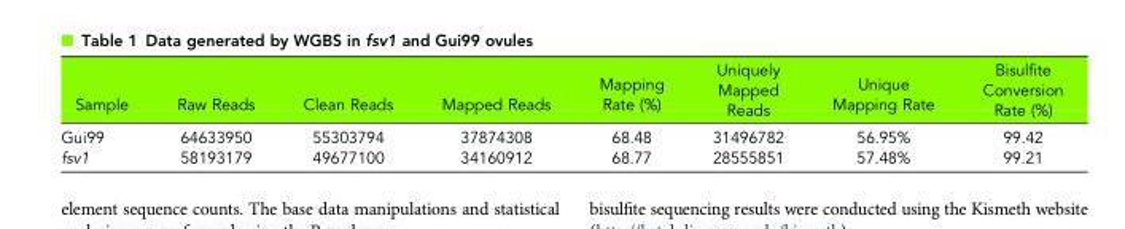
<table><thead><tr><td>Sample</td><td>Raw Reads</td><td>Clean Reads</td><td>Mapped Reads</td><td>Mapping Rate (%)</td><td>Uniquely Mapped Reads</td><td>Unique Mapping Rate</td><td>Bisulfite Conversion Rate (%)</td></tr></thead><tbody><tr><td>Gui99</td><td>64633950</td><td>55303794</td><td>37874308</td><td>68.48</td><td>31496782</td><td>56.95%</td><td>99.42</td></tr><tr><td>fsv1</td><td>58193179</td><td>49677100</td><td>34160912</td><td>68.77</td><td>28555851</td><td>57.48%</td><td>99.21</td></tr></tbody></table>